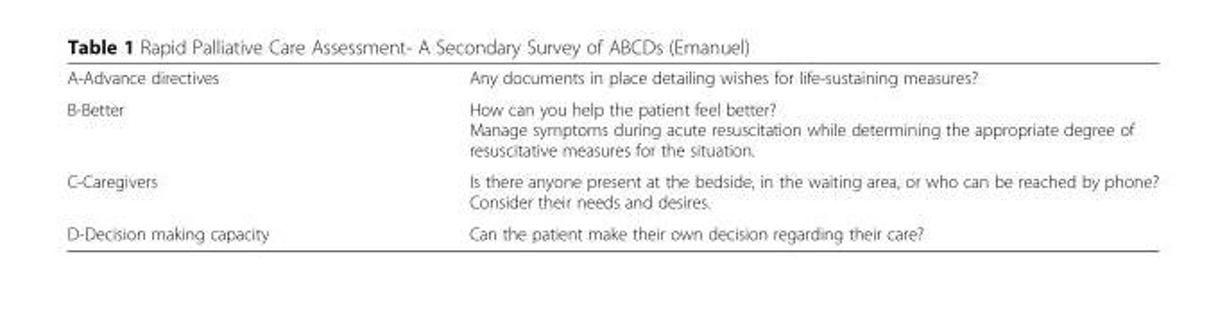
<table><tbody><tr><td>A-Advance directives</td><td>Any documents in place detailing wishes for life-sustaining measures?</td></tr><tr><td>B-Better</td><td>How can you help the patient feel better? Manage symptoms during acute resuscitation while determining the appropriate degree of resuscitative measures for the situation.</td></tr><tr><td>C-Caregivers</td><td>Is there anyone present at the bedside, in the waiting area, or who can be reached by phone? Consider their needs and desires.</td></tr><tr><td>D-Decision making capacity</td><td>Can the patient make their own decision regarding their care?</td></tr></tbody></table>